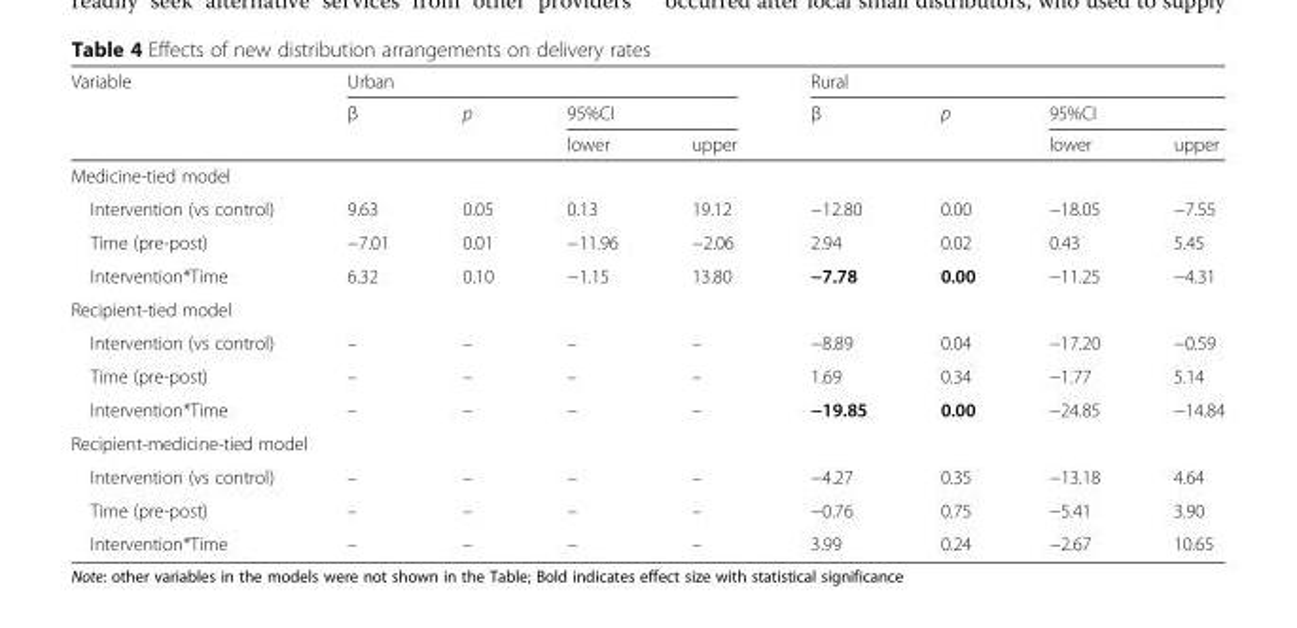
<table><thead><tr><td rowspan="3">Variable</td><td colspan="4">Urban</td><td colspan="4">Rural</td></tr><tr><td rowspan="2">β</td><td rowspan="2">p</td><td colspan="2">95%CI</td><td rowspan="2">β</td><td rowspan="2">p</td><td colspan="2">95%CI</td></tr><tr><td>lower</td><td>upper</td><td>lower</td><td>upper</td></tr></thead><tbody><tr><td colspan="9">Medicine-tied model</td></tr><tr><td>Intervention (vs control)</td><td>9.63</td><td>0.05</td><td>0.13</td><td>19.12</td><td>−12.80</td><td>0.00</td><td>−18.05</td><td>−7.55</td></tr><tr><td>Time (pre-post)</td><td>−7.01</td><td>0.01</td><td>−11.96</td><td>−2.06</td><td>2.94</td><td>0.02</td><td>0.43</td><td>5.45</td></tr><tr><td>Intervention*Time</td><td>6.32</td><td>0.10</td><td>−1.15</td><td>13.80</td><td>−7.78</td><td>0.00</td><td>−11.25</td><td>−4.31</td></tr><tr><td colspan="9">Recipient-tied model</td></tr><tr><td>Intervention (vs control)</td><td>–</td><td>–</td><td>–</td><td>–</td><td>−8.89</td><td>0.04</td><td>−17.20</td><td>−0.59</td></tr><tr><td>Time (pre-post)</td><td>–</td><td>–</td><td>–</td><td>–</td><td>1.69</td><td>0.34</td><td>−1.77</td><td>5.14</td></tr><tr><td>Intervention*Time</td><td>–</td><td>–</td><td>–</td><td>–</td><td>−19.85</td><td>0.00</td><td>−24.85</td><td>−14.84</td></tr><tr><td colspan="9">Recipient-medicine-tied model</td></tr><tr><td>Intervention (vs control)</td><td>–</td><td>–</td><td>–</td><td>–</td><td>−4.27</td><td>0.35</td><td>−13.18</td><td>4.64</td></tr><tr><td>Time (pre-post)</td><td>–</td><td>–</td><td>–</td><td>–</td><td>−0.76</td><td>0.75</td><td>−5.41</td><td>3.90</td></tr><tr><td>Intervention*Time</td><td>–</td><td>–</td><td>–</td><td>–</td><td>3.99</td><td>0.24</td><td>−2.67</td><td>10.65</td></tr></tbody></table>